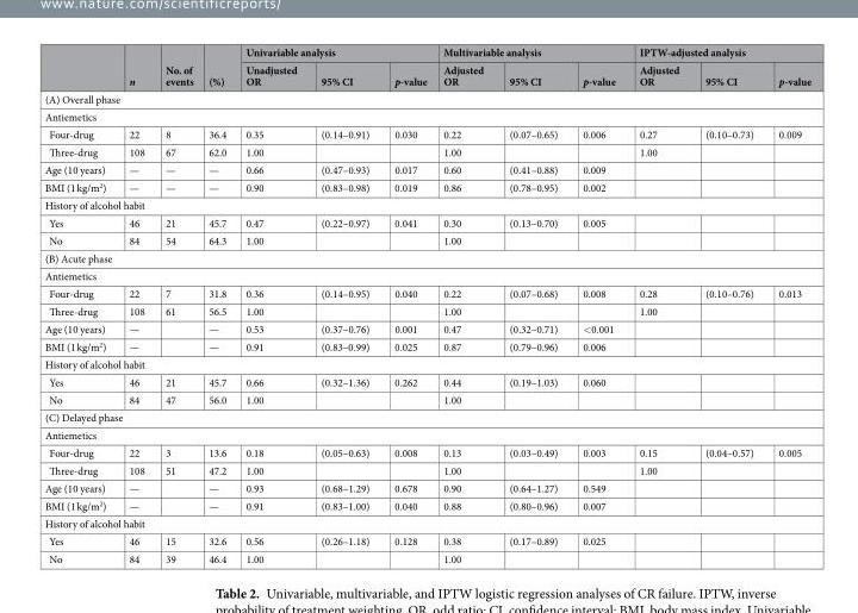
<table><thead><tr><td rowspan="2"></td><td rowspan="2">n</td><td rowspan="2">No. of events</td><td rowspan="2">(%)</td><td colspan="3">Univariable analysis</td><td colspan="3">Multivariable analysis</td><td colspan="3">IPTW-adjusted analysis</td></tr><tr><td>Unadjusted OR</td><td>95% CI</td><td>p-value</td><td>Adjusted OR</td><td>95% CI</td><td>p-value</td><td>Adjusted OR</td><td>95% CI</td><td>p-value</td></tr></thead><tbody><tr><td colspan="13">(A) Overall phase</td></tr><tr><td colspan="13">Antiemetics</td></tr><tr><td>Four-drug</td><td>22</td><td>8</td><td>36.4</td><td>0.35</td><td>(0.14–0.91)</td><td>0.030</td><td>0.22</td><td>(0.07–0.65)</td><td>0.006</td><td>0.27</td><td>(0.10–0.73)</td><td>0.009</td></tr><tr><td>Three-drug</td><td>108</td><td>67</td><td>62.0</td><td>1.00</td><td></td><td></td><td>1.00</td><td></td><td></td><td>1.00</td><td></td><td></td></tr><tr><td>Age (10 years)</td><td>—</td><td>—</td><td>—</td><td>0.66</td><td>(0.47–0.93)</td><td>0.017</td><td>0.60</td><td>(0.41–0.88)</td><td>0.009</td><td></td><td></td><td></td></tr><tr><td>BMI (1 kg/m<sup>2</sup>)</td><td>—</td><td>—</td><td>—</td><td>0.90</td><td>(0.83–0.98)</td><td>0.019</td><td>0.86</td><td>(0.78–0.95)</td><td>0.002</td><td></td><td></td><td></td></tr><tr><td colspan="13">History of alcohol habit</td></tr><tr><td>Yes</td><td>46</td><td>21</td><td>45.7</td><td>0.47</td><td>(0.22–0.97)</td><td>0.041</td><td>0.30</td><td>(0.13–0.70)</td><td>0.005</td><td></td><td></td><td></td></tr><tr><td>No</td><td>84</td><td>54</td><td>64.3</td><td>1.00</td><td></td><td></td><td>1.00</td><td></td><td></td><td></td><td></td><td></td></tr><tr><td colspan="13">(B) Acute phase</td></tr><tr><td colspan="13">Antiemetics</td></tr><tr><td>Four-drug</td><td>22</td><td>7</td><td>31.8</td><td>0.36</td><td>(0.14–0.95)</td><td>0.040</td><td>0.22</td><td>(0.07–0.68)</td><td>0.008</td><td>0.28</td><td>(0.10–0.76)</td><td>0.013</td></tr><tr><td>Three-drug</td><td>108</td><td>61</td><td>56.5</td><td>1.00</td><td></td><td></td><td>1.00</td><td></td><td></td><td>1.00</td><td></td><td></td></tr><tr><td>Age (10 years)</td><td>—</td><td></td><td>—</td><td>0.53</td><td>(0.37–0.76)</td><td>0.001</td><td>0.47</td><td>(0.32–0.71)</td><td>&lt;0.001</td><td></td><td></td><td></td></tr><tr><td>BMI (1 kg/m<sup>2</sup>)</td><td>—</td><td></td><td>—</td><td>0.91</td><td>(0.83–0.99)</td><td>0.025</td><td>0.87</td><td>(0.79–0.96)</td><td>0.006</td><td></td><td></td><td></td></tr><tr><td colspan="13">History of alcohol habit</td></tr><tr><td>Yes</td><td>46</td><td>21</td><td>45.7</td><td>0.66</td><td>(0.32–1.36)</td><td>0.262</td><td>0.44</td><td>(0.19–1.03)</td><td>0.060</td><td></td><td></td><td></td></tr><tr><td>No</td><td>84</td><td>47</td><td>56.0</td><td>1.00</td><td></td><td></td><td>1.00</td><td></td><td></td><td></td><td></td><td></td></tr><tr><td colspan="13">(C) Delayed phase</td></tr><tr><td colspan="13">Antiemetics</td></tr><tr><td>Four-drug</td><td>22</td><td>3</td><td>13.6</td><td>0.18</td><td>(0.05–0.63)</td><td>0.008</td><td>0.13</td><td>(0.03–0.49)</td><td>0.003</td><td>0.15</td><td>(0.04–0.57)</td><td>0.005</td></tr><tr><td>Three-drug</td><td>108</td><td>51</td><td>47.2</td><td>1.00</td><td></td><td></td><td>1.00</td><td></td><td></td><td>1.00</td><td></td><td></td></tr><tr><td>Age (10 years)</td><td>—</td><td></td><td>—</td><td>0.93</td><td>(0.68–1.29)</td><td>0.678</td><td>0.90</td><td>(0.64–1.27)</td><td>0.549</td><td></td><td></td><td></td></tr><tr><td>BMI (1 kg/m<sup>2</sup>)</td><td>—</td><td></td><td>—</td><td>0.91</td><td>(0.83–1.00)</td><td>0.040</td><td>0.88</td><td>(0.80–0.96)</td><td>0.007</td><td></td><td></td><td></td></tr><tr><td colspan="13">History of alcohol habit</td></tr><tr><td>Yes</td><td>46</td><td>15</td><td>32.6</td><td>0.56</td><td>(0.26–1.18)</td><td>0.128</td><td>0.38</td><td>(0.17–0.89)</td><td>0.025</td><td></td><td></td><td></td></tr><tr><td>No</td><td>84</td><td>39</td><td>46.4</td><td>1.00</td><td></td><td></td><td>1.00</td><td></td><td></td><td></td><td></td><td></td></tr></tbody></table>